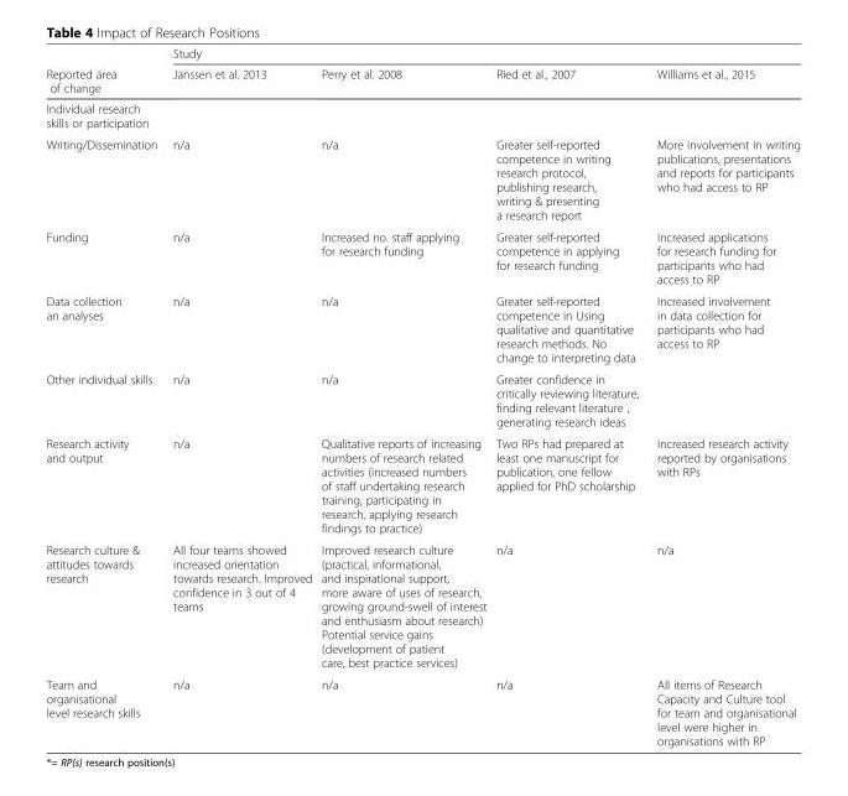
<table><thead><tr><td rowspan="2">Reported area of change</td><td colspan="4">Study</td></tr><tr><td>Janssen et al. 2013</td><td>Perry et al. 2008</td><td>Ried et al., 2007</td><td>Williams et al., 2015</td></tr></thead><tbody><tr><td colspan="5">Individual research skills or participation</td></tr><tr><td>Writing/Dissemination</td><td>n/a</td><td>n/a</td><td>Greater self-reported competence in writing research protocol, publishing research, writing &amp; presenting a research report</td><td>More involvement in writing publications, presentations and reports for participants who had access to RP</td></tr><tr><td>Funding</td><td>n/a</td><td>Increased no. staff applying for research funding</td><td>Greater self-reported competence in applying for research funding</td><td>Increased applications for research funding for participants who had access to RP</td></tr><tr><td>Data collection an analyses</td><td>n/a</td><td>n/a</td><td>Greater self-reported competence in Using qualitative and quantitative research methods. No change to interpreting data</td><td>Increased involvement in data collection for participants who had access to RP</td></tr><tr><td>Other individual skills</td><td>n/a</td><td>n/a</td><td>Greater confidence in critically reviewing literature, finding relevant literature , generating research ideas</td><td></td></tr><tr><td>Research activity and output</td><td>n/a</td><td>Qualitative reports of increasing numbers of research related activities (increased numbers of staff undertaking research training, participating in research, applying research findings to practice)</td><td>Two RPs had prepared at least one manuscript for publication, one fellow applied for PhD scholarship</td><td>Increased research activity reported by organisations with RPs</td></tr><tr><td>Research culture &amp; attitudes towards research</td><td>All four teams showed increased orientation towards research. Improved confidence in 3 out of 4 teams</td><td>Improved research culture (practical, informational, and inspirational support, more aware of uses of research, growing ground-swell of interest and enthusiasm about research) Potential service gains (development of patient care, best practice services)</td><td>n/a</td><td>n/a</td></tr><tr><td>Team and organisational level research skills</td><td>n/a</td><td>n/a</td><td>n/a</td><td>All items of Research Capacity and Culture tool for team and organisational level were higher in organisations with RP</td></tr></tbody></table>